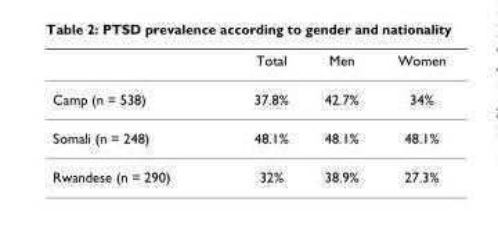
<table><thead><tr><td></td><td>Total</td><td>Men</td><td>Women</td></tr></thead><tbody><tr><td>Camp (n = 538)</td><td>37.8%</td><td>42.7%</td><td>34%</td></tr><tr><td>Somali (n = 248)</td><td>48.1%</td><td>48.1%</td><td>48.1%</td></tr><tr><td>Rwandese (n = 290)</td><td>32%</td><td>38.9%</td><td>27.3%</td></tr></tbody></table>